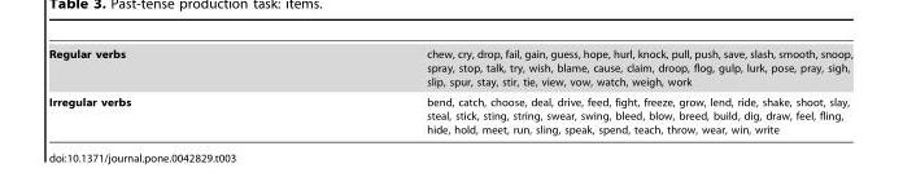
<table><tbody><tr><td>Regular verbs</td><td>chew, cry, drop, fail, gain, guess, hope, hurl, knock, pull, push, save, slash, smooth, snoop, spray, stop, talk, try, wish, blame, cause, claim, droop, flog, gulp, lurk, pose, pray, sigh, slip, spur, stay, stir, tie, view, vow, watch, weigh, work</td></tr><tr><td>Irregular verbs</td><td>bend, catch, choose, deal, drive, feed, fight, freeze, grow, lend, ride, shake, shoot, slay, steal, stick, sting, string, swear, swing, bleed, blow, breed, build, dig, draw, feel, fling, hide, hold, meet, run, sling, speak, spend, teach, throw, wear, win, write</td></tr></tbody></table>